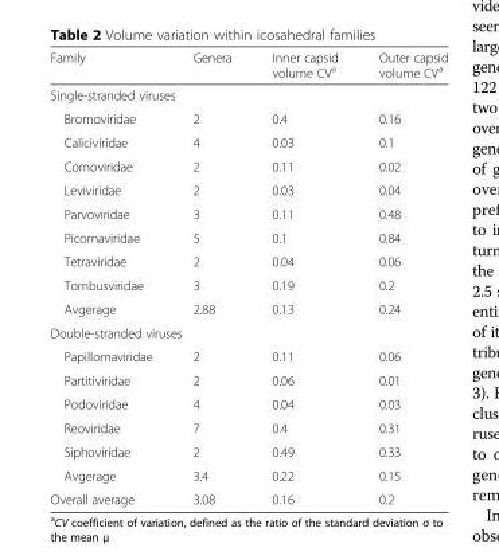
<table><thead><tr><td>Family</td><td>Genera</td><td>Inner capsid volume CV<sup>a</sup></td><td>Outer capsid volume CV<sup>a</sup></td></tr></thead><tbody><tr><td colspan="4">Single-stranded viruses</td></tr><tr><td>Bromoviridae</td><td>2</td><td>0.4</td><td>0.16</td></tr><tr><td>Caliciviridae</td><td>4</td><td>0.03</td><td>0.1</td></tr><tr><td>Comoviridae</td><td>2</td><td>0.11</td><td>0.02</td></tr><tr><td>Leviviridae</td><td>2</td><td>0.03</td><td>0.04</td></tr><tr><td>Parvoviridae</td><td>3</td><td>0.11</td><td>0.48</td></tr><tr><td>Picornaviridae</td><td>5</td><td>0.1</td><td>0.84</td></tr><tr><td>Tetraviridae</td><td>2</td><td>0.04</td><td>0.06</td></tr><tr><td>Tombusviridae</td><td>3</td><td>0.19</td><td>0.2</td></tr><tr><td>Avgerage</td><td>2.88</td><td>0.13</td><td>0.24</td></tr><tr><td colspan="4">Double-stranded viruses</td></tr><tr><td>Papillomaviridae</td><td>2</td><td>0.11</td><td>0.06</td></tr><tr><td>Partitiviridae</td><td>2</td><td>0.06</td><td>0.01</td></tr><tr><td>Podoviridae</td><td>4</td><td>0.04</td><td>0.03</td></tr><tr><td>Reoviridae</td><td>7</td><td>0.4</td><td>0.31</td></tr><tr><td>Siphoviridae</td><td>2</td><td>0.49</td><td>0.33</td></tr><tr><td>Avgerage</td><td>3.4</td><td>0.22</td><td>0.15</td></tr><tr><td>Overall average</td><td>3.08</td><td>0.16</td><td>0.2</td></tr></tbody></table>